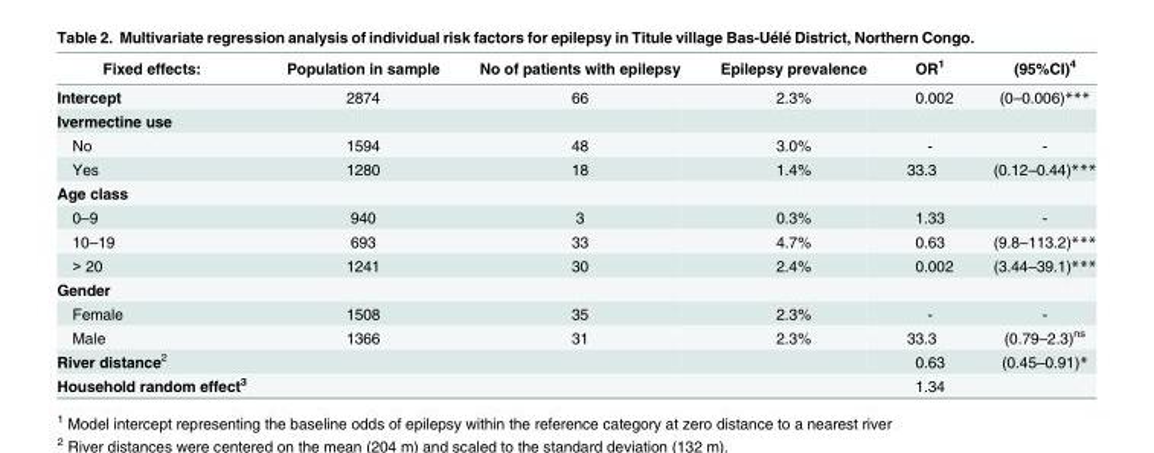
<table><thead><tr><td>Fixed effects:</td><td>Population in sample</td><td>No of patients with epilepsy</td><td>Epilepsy prevalence</td><td>OR<sup>1</sup></td><td>(95%CI)<sup>4</sup></td></tr></thead><tbody><tr><td>Intercept</td><td>2874</td><td>66</td><td>2.3%</td><td>0.002</td><td>(0–0.006)***</td></tr><tr><td colspan="6">Ivermectine use</td></tr><tr><td>No</td><td>1594</td><td>48</td><td>3.0%</td><td>-</td><td>-</td></tr><tr><td>Yes</td><td>1280</td><td>18</td><td>1.4%</td><td>33.3</td><td>(0.12–0.44)***</td></tr><tr><td colspan="6">Age class</td></tr><tr><td>0–9</td><td>940</td><td>3</td><td>0.3%</td><td>1.33</td><td>-</td></tr><tr><td>10–19</td><td>693</td><td>33</td><td>4.7%</td><td>0.63</td><td>(9.8–113.2)***</td></tr><tr><td>&gt; 20</td><td>1241</td><td>30</td><td>2.4%</td><td>0.002</td><td>(3.44–39.1)***</td></tr><tr><td colspan="6">Gender</td></tr><tr><td>Female</td><td>1508</td><td>35</td><td>2.3%</td><td>-</td><td>-</td></tr><tr><td>Male</td><td>1366</td><td>31</td><td>2.3%</td><td>33.3</td><td>(0.79–2.3)<sup>ns</sup></td></tr><tr><td>River distance<sup>2</sup></td><td></td><td></td><td></td><td>0.63</td><td>(0.45–0.91)*</td></tr><tr><td>Household random effect<sup>3</sup></td><td></td><td></td><td></td><td>1.34</td><td></td></tr></tbody></table>